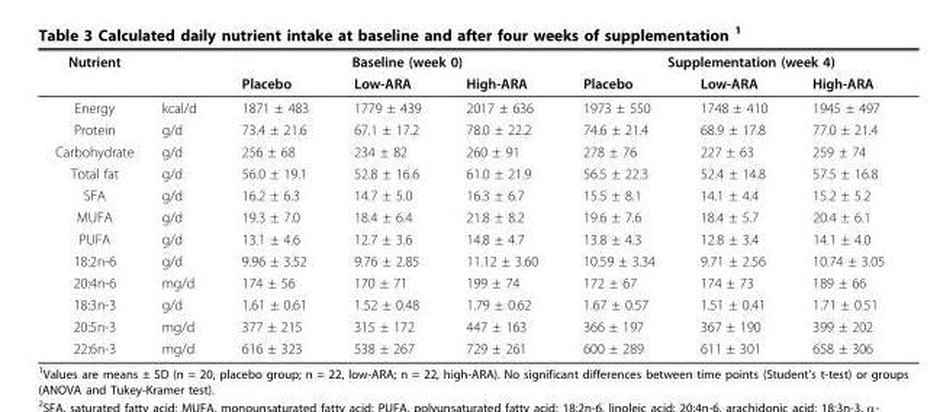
<table><tbody><tr><td rowspan="2">Nutrient</td><td></td><td colspan="3">Baseline (week 0)</td><td colspan="3">Supplementation (week 4)</td></tr><tr><td></td><td>Placebo</td><td>Low-ARA</td><td>High-ARA</td><td>Placebo</td><td>Low-ARA</td><td>High-ARA</td></tr><tr><td>Energy</td><td>kcal/d</td><td>1871 ± 483</td><td>1779 ± 439</td><td>2017 ± 636</td><td>1973 ± 550</td><td>1748 ± 410</td><td>1945 ± 497</td></tr><tr><td>Protein</td><td>g/d</td><td>73.4 ± 21.6</td><td>67.1 ± 17.2</td><td>78.0 ± 22.2</td><td>74.6 ± 21.4</td><td>68.9 ± 17.8</td><td>77.0 ± 21.4</td></tr><tr><td>Carbohydrate</td><td>g/d</td><td>256 ± 68</td><td>234 ± 82</td><td>260 ± 91</td><td>278 ± 76</td><td>227 ± 63</td><td>259 ± 74</td></tr><tr><td>Total fat</td><td>g/d</td><td>56.0 ± 19.1</td><td>52.8 ± 16.6</td><td>61.0 ± 21.9</td><td>56.5 ± 22.3</td><td>52.4 ± 14.8</td><td>57.5 ± 16.8</td></tr><tr><td>SFA</td><td>g/d</td><td>16.2 ± 6.3</td><td>14.7 ± 5.0</td><td>16.3 ± 6.7</td><td>15.5 ± 8.1</td><td>14.1 ± 4.4</td><td>15.2 ± 5.2</td></tr><tr><td>MUFA</td><td>g/d</td><td>19.3 ± 7.0</td><td>18.4 ± 6.4</td><td>21.8 ± 8.2</td><td>19.6 ± 7.6</td><td>18.4 ± 5.7</td><td>20.4 ± 6.1</td></tr><tr><td>PUFA</td><td>g/d</td><td>13.1 ± 4.6</td><td>12.7 ± 3.6</td><td>14.8 ± 4.7</td><td>13.8 ± 4.3</td><td>12.8 ± 3.4</td><td>14.1 ± 4.0</td></tr><tr><td>18:2n-6</td><td>g/d</td><td>9.96 ± 3.52</td><td>9.76 ± 2.85</td><td>11.12 ± 3.60</td><td>10.59 ± 3.34</td><td>9.71 ± 2.56</td><td>10.74 ± 3.05</td></tr><tr><td>20:4n-6</td><td>mg/d</td><td>174 ± 56</td><td>170 ± 71</td><td>199 ± 74</td><td>172 ± 67</td><td>174 ± 73</td><td>189 ± 66</td></tr><tr><td>18:3n-3</td><td>g/d</td><td>1.61 ± 0.61</td><td>1.52 ± 0.48</td><td>1.79 ± 0.62</td><td>1.67 ± 0.57</td><td>1.51 ± 0.41</td><td>1.71 ± 0.51</td></tr><tr><td>20:5n-3</td><td>mg/d</td><td>377 ± 215</td><td>315 ± 172</td><td>447 ± 163</td><td>366 ± 197</td><td>367 ± 190</td><td>399 ± 202</td></tr><tr><td>22:6n-3</td><td>mg/d</td><td>616 ± 323</td><td>538 ± 267</td><td>729 ± 261</td><td>600 ± 289</td><td>611 ± 301</td><td>658 ± 306</td></tr></tbody></table>